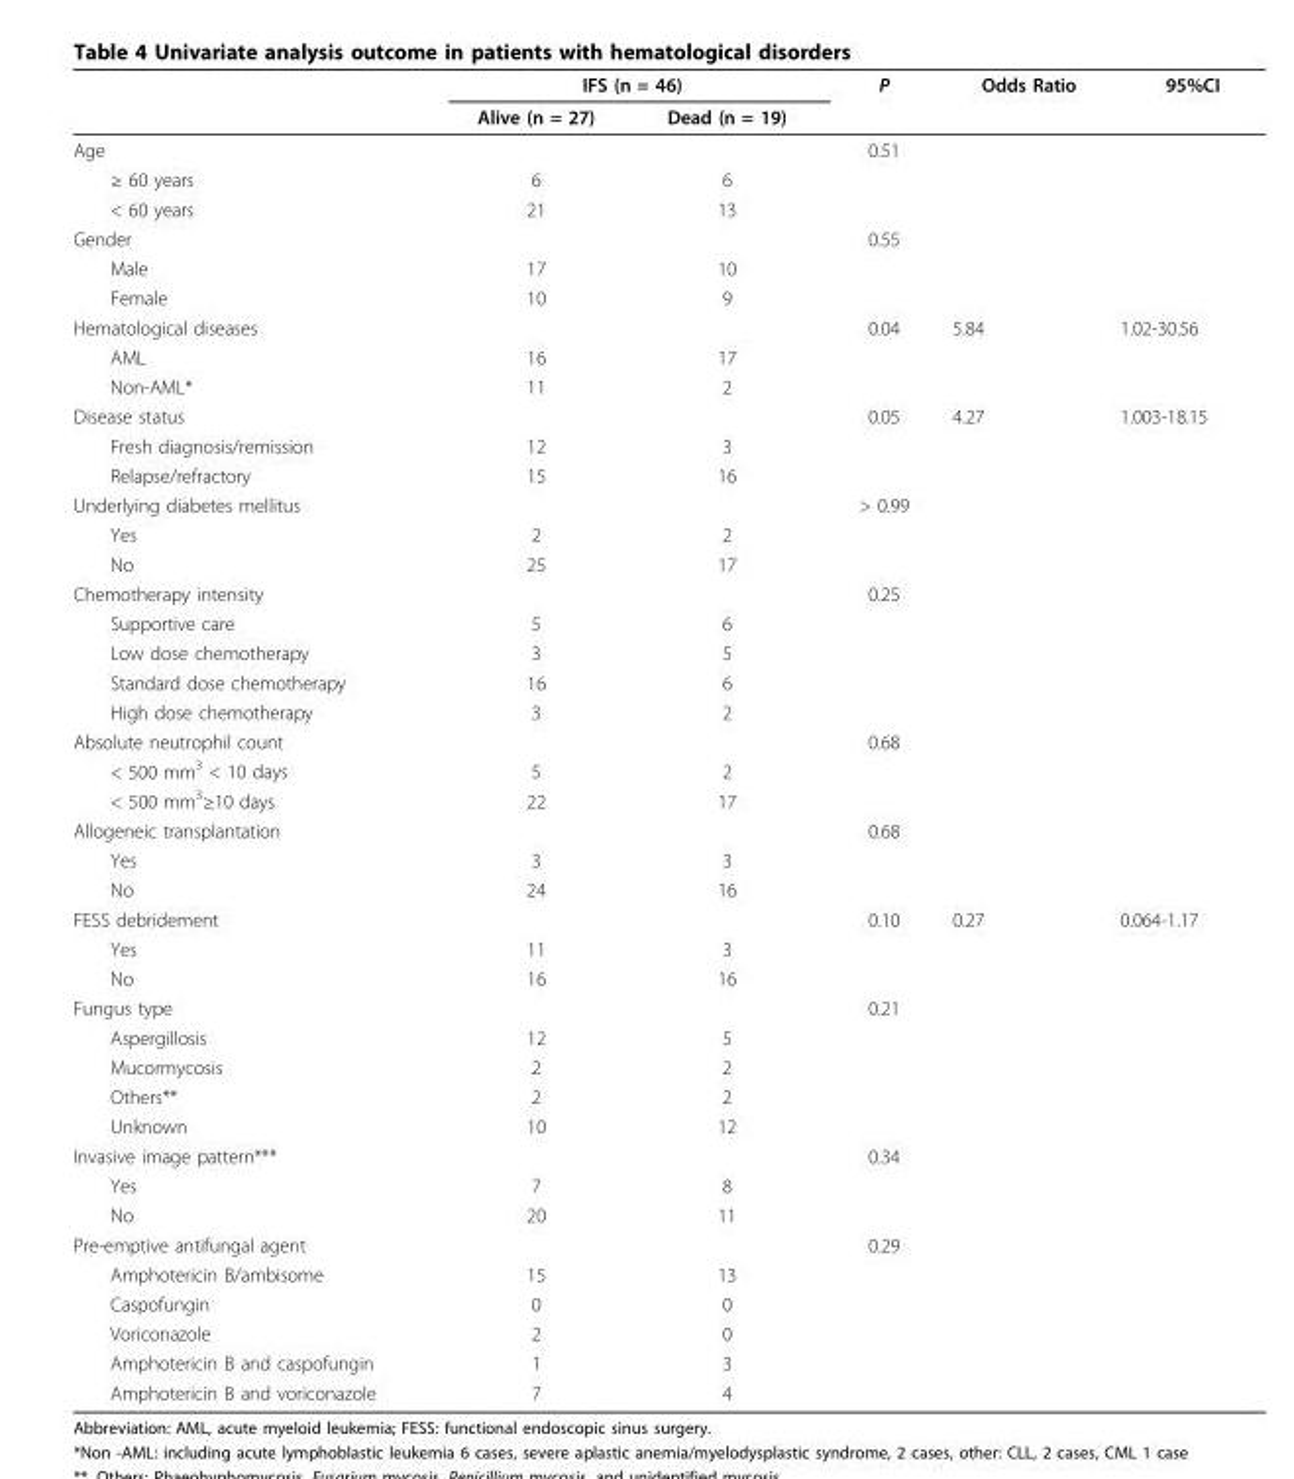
<table><thead><tr><td rowspan="2"></td><td colspan="2">IFS (n = 46)</td><td rowspan="2">P</td><td rowspan="2">Odds Ratio</td><td rowspan="2">95%CI</td></tr><tr><td>Alive (n = 27)</td><td>Dead (n = 19)</td></tr></thead><tbody><tr><td>Age</td><td></td><td></td><td>0.51</td><td></td><td></td></tr><tr><td>≥ 60 years</td><td>6</td><td>6</td><td></td><td></td><td></td></tr><tr><td>&lt; 60 years</td><td>21</td><td>13</td><td></td><td></td><td></td></tr><tr><td>Gender</td><td></td><td></td><td>0.55</td><td></td><td></td></tr><tr><td>Male</td><td>17</td><td>10</td><td></td><td></td><td></td></tr><tr><td>Female</td><td>10</td><td>9</td><td></td><td></td><td></td></tr><tr><td>Hematological diseases</td><td></td><td></td><td>0.04</td><td>5.84</td><td>1.02-30.56</td></tr><tr><td>AML</td><td>16</td><td>17</td><td></td><td></td><td></td></tr><tr><td>Non-AML*</td><td>11</td><td>2</td><td></td><td></td><td></td></tr><tr><td>Disease status</td><td></td><td></td><td>0.05</td><td>4.27</td><td>1.003-18.15</td></tr><tr><td>Fresh diagnosis/remission</td><td>12</td><td>3</td><td></td><td></td><td></td></tr><tr><td>Relapse/refractory</td><td>15</td><td>16</td><td></td><td></td><td></td></tr><tr><td>Underlying diabetes mellitus</td><td></td><td></td><td>&gt; 0.99</td><td></td><td></td></tr><tr><td>Yes</td><td>2</td><td>2</td><td></td><td></td><td></td></tr><tr><td>No</td><td>25</td><td>17</td><td></td><td></td><td></td></tr><tr><td>Chemotherapy intensity</td><td></td><td></td><td>0.25</td><td></td><td></td></tr><tr><td>Supportive care</td><td>5</td><td>6</td><td></td><td></td><td></td></tr><tr><td>Low dose chemotherapy</td><td>3</td><td>5</td><td></td><td></td><td></td></tr><tr><td>Standard dose chemotherapy</td><td>16</td><td>6</td><td></td><td></td><td></td></tr><tr><td>High dose chemotherapy</td><td>3</td><td>2</td><td></td><td></td><td></td></tr><tr><td>Absolute neutrophil count</td><td></td><td></td><td>0.68</td><td></td><td></td></tr><tr><td>&lt; 500 mm<sup>3</sup> &lt; 10 days</td><td>5</td><td>2</td><td></td><td></td><td></td></tr><tr><td>&lt; 500 mm<sup>3</sup>≥10 days</td><td>22</td><td>17</td><td></td><td></td><td></td></tr><tr><td>Allogeneic transplantation</td><td></td><td></td><td>0.68</td><td></td><td></td></tr><tr><td>Yes</td><td>3</td><td>3</td><td></td><td></td><td></td></tr><tr><td>No</td><td>24</td><td>16</td><td></td><td></td><td></td></tr><tr><td>FESS debridement</td><td></td><td></td><td>0.10</td><td>0.27</td><td>0.064-1.17</td></tr><tr><td>Yes</td><td>11</td><td>3</td><td></td><td></td><td></td></tr><tr><td>No</td><td>16</td><td>16</td><td></td><td></td><td></td></tr><tr><td>Fungus type</td><td></td><td></td><td>0.21</td><td></td><td></td></tr><tr><td>Aspergillosis</td><td>12</td><td>5</td><td></td><td></td><td></td></tr><tr><td>Mucormycosis</td><td>2</td><td>2</td><td></td><td></td><td></td></tr><tr><td>Others**</td><td>2</td><td>2</td><td></td><td></td><td></td></tr><tr><td>Unknown</td><td>10</td><td>12</td><td></td><td></td><td></td></tr><tr><td>Invasive image pattern***</td><td></td><td></td><td>0.34</td><td></td><td></td></tr><tr><td>Yes</td><td>7</td><td>8</td><td></td><td></td><td></td></tr><tr><td>No</td><td>20</td><td>11</td><td></td><td></td><td></td></tr><tr><td>Pre-emptive antifungal agent</td><td></td><td></td><td>0.29</td><td></td><td></td></tr><tr><td>Amphotericin B/ambisome</td><td>15</td><td>13</td><td></td><td></td><td></td></tr><tr><td>Caspofungin</td><td>0</td><td>0</td><td></td><td></td><td></td></tr><tr><td>Voriconazole</td><td>2</td><td>0</td><td></td><td></td><td></td></tr><tr><td>Amphotericin B and caspofungin</td><td>1</td><td>3</td><td></td><td></td><td></td></tr><tr><td>Amphotericin B and voriconazole</td><td>7</td><td>4</td><td></td><td></td><td></td></tr></tbody></table>